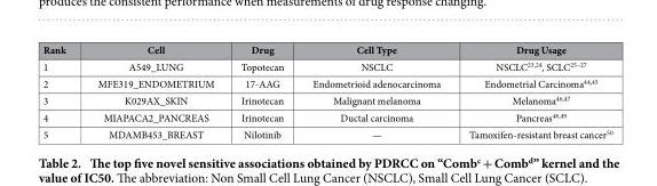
<table><thead><tr><td>Rank</td><td>Cell</td><td>Drug</td><td>Cell Type</td><td>Drug Usage</td></tr></thead><tbody><tr><td>1</td><td>A549_LUNG</td><td>Topotecan</td><td>NSCLC</td><td>NSCLC23,24, SCLC25–27</td></tr><tr><td>2</td><td>MFE319_ENDOMETRIUM</td><td>17-AAG</td><td>Endometrioid adenocarcinoma</td><td>Endometrial Carcinoma<sup>44</sup>,<sup>45</sup></td></tr><tr><td>3</td><td>K029AX_SKIN</td><td>Irinotecan</td><td>Malignant melanoma</td><td>Melanoma<sup>46</sup>,<sup>47</sup></td></tr><tr><td>4</td><td>MIAPACA2_PANCREAS</td><td>Irinotecan</td><td>Ductal carcinoma</td><td>Pancreas<sup>48</sup>,<sup>49</sup></td></tr><tr><td>5</td><td>MDAMB453_BREAST</td><td>Nilotinib</td><td>—</td><td>Tamoxifen-resistant breast cancer<sup>50</sup></td></tr></tbody></table>